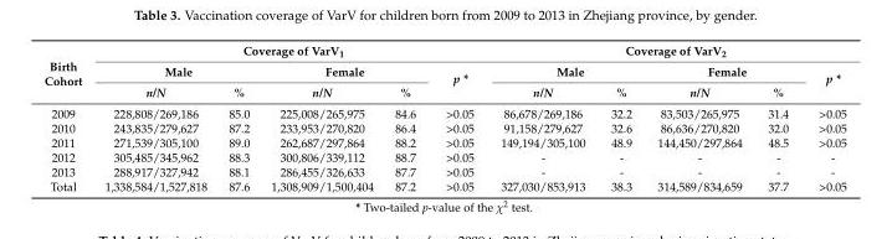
<table><thead><tr><td rowspan="3">Birth Cohort</td><td colspan="5">Coverage of VarV<sub>1</sub></td><td colspan="5">Coverage of VarV<sub>2</sub></td></tr><tr><td colspan="2">Male</td><td colspan="2">Female</td><td rowspan="2">p *</td><td colspan="2">Male</td><td colspan="2">Female</td><td rowspan="2">p *</td></tr><tr><td>n/N</td><td>%</td><td>n/N</td><td>%</td><td>n/N</td><td>%</td><td>n/N</td><td>%</td></tr></thead><tbody><tr><td>2009</td><td>228,808/269,186</td><td>85.0</td><td>225,008/265,975</td><td>84.6</td><td>&gt;0.05</td><td>86,678/269,186</td><td>32.2</td><td>83,503/265,975</td><td>31.4</td><td>&gt;0.05</td></tr><tr><td>2010</td><td>243,835/279,627</td><td>87.2</td><td>233,953/270,820</td><td>86.4</td><td>&gt;0.05</td><td>91,158/279,627</td><td>32.6</td><td>86,636/270,820</td><td>32.0</td><td>&gt;0.05</td></tr><tr><td>2011</td><td>271,539/305,100</td><td>89.0</td><td>262,687/297,864</td><td>88.2</td><td>&gt;0.05</td><td>149,194/305,100</td><td>48.9</td><td>144,450/297,864</td><td>48.5</td><td>&gt;0.05</td></tr><tr><td>2012</td><td>305,485/345,962</td><td>88.3</td><td>300,806/339,112</td><td>88.7</td><td>&gt;0.05</td><td>-</td><td>-</td><td>-</td><td>-</td><td>-</td></tr><tr><td>2013</td><td>288,917/327,942</td><td>88.1</td><td>286,455/326,633</td><td>87.7</td><td>&gt;0.05</td><td>-</td><td>-</td><td>-</td><td>-</td><td>-</td></tr><tr><td>Total</td><td>1,338,584/1,527,818</td><td>87.6</td><td>1,308,909/1,500,404</td><td>87.2</td><td>&gt;0.05</td><td>327,030/853,913</td><td>38.3</td><td>314,589/834,659</td><td>37.7</td><td>&gt;0.05</td></tr></tbody></table>